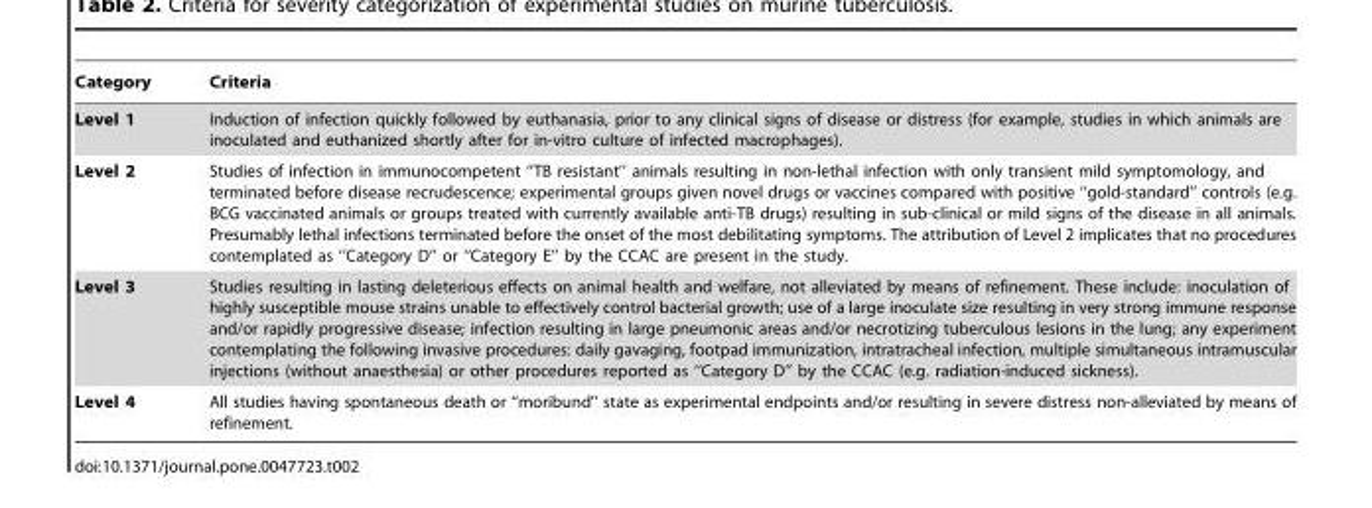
<table><thead><tr><td>Category</td><td>Criteria</td></tr></thead><tbody><tr><td>Level 1</td><td>Induction of infection quickly followed by euthanasia, prior to any clinical signs of disease or distress (for example, studies in which animals are inoculated and euthanized shortly after for in-vitro culture of infected macrophages).</td></tr><tr><td>Level 2</td><td>Studies of infection in immunocompetent ‘‘TB resistant’’ animals resulting in non-lethal infection with only transient mild symptomology, and terminated before disease recrudescence; experimental groups given novel drugs or vaccines compared with positive ‘‘gold-standard’’ controls (e.g. BCG vaccinated animals or groups treated with currently available anti-TB drugs) resulting in sub-clinical or mild signs of the disease in all animals. Presumably lethal infections terminated before the onset of the most debilitating symptoms. The attribution of Level 2 implicates that no procedures contemplated as ‘‘Category D’’ or ‘‘Category E’’ by the CCAC are present in the study.</td></tr><tr><td>Level 3</td><td>Studies resulting in lasting deleterious effects on animal health and welfare, not alleviated by means of refinement. These include: inoculation of highly susceptible mouse strains unable to effectively control bacterial growth; use of a large inoculate size resulting in very strong immune response and/or rapidly progressive disease; infection resulting in large pneumonic areas and/or necrotizing tuberculous lesions in the lung; any experiment contemplating the following invasive procedures: daily gavaging, footpad immunization, intratracheal infection, multiple simultaneous intramuscular injections (without anaesthesia) or other procedures reported as ‘‘Category D’’ by the CCAC (e.g. radiation-induced sickness).</td></tr><tr><td>Level 4</td><td>All studies having spontaneous death or ‘‘moribund’’ state as experimental endpoints and/or resulting in severe distress non-alleviated by means of refinement.</td></tr></tbody></table>